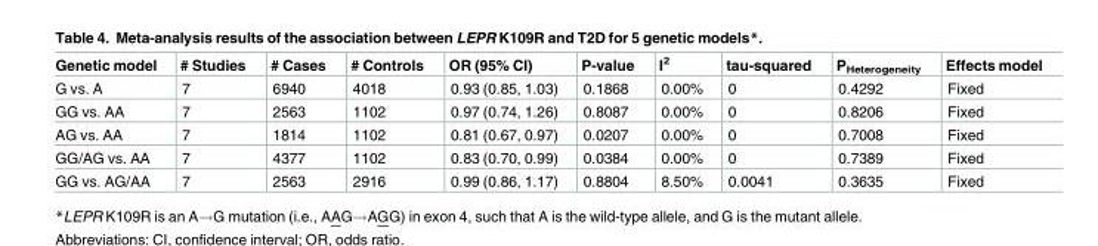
<table><thead><tr><td>Genetic model</td><td># Studies</td><td># Cases</td><td># Controls</td><td>OR (95% CI)</td><td>P-value</td><td>I<sup>2</sup></td><td>tau-squared</td><td>P<sub>Heterogeneity</sub></td><td>Effects model</td></tr></thead><tbody><tr><td>G vs. A</td><td>7</td><td>6940</td><td>4018</td><td>0.93 (0.85, 1.03)</td><td>0.1868</td><td>0.00%</td><td>0</td><td>0.4292</td><td>Fixed</td></tr><tr><td>GG vs. AA</td><td>7</td><td>2563</td><td>1102</td><td>0.97 (0.74, 1.26)</td><td>0.8087</td><td>0.00%</td><td>0</td><td>0.8206</td><td>Fixed</td></tr><tr><td>AG vs. AA</td><td>7</td><td>1814</td><td>1102</td><td>0.81 (0.67, 0.97)</td><td>0.0207</td><td>0.00%</td><td>0</td><td>0.7008</td><td>Fixed</td></tr><tr><td>GG/AG vs. AA</td><td>7</td><td>4377</td><td>1102</td><td>0.83 (0.70, 0.99)</td><td>0.0384</td><td>0.00%</td><td>0</td><td>0.7389</td><td>Fixed</td></tr><tr><td>GG vs. AG/AA</td><td>7</td><td>2563</td><td>2916</td><td>0.99 (0.86, 1.17)</td><td>0.8804</td><td>8.50%</td><td>0.0041</td><td>0.3635</td><td>Fixed</td></tr></tbody></table>